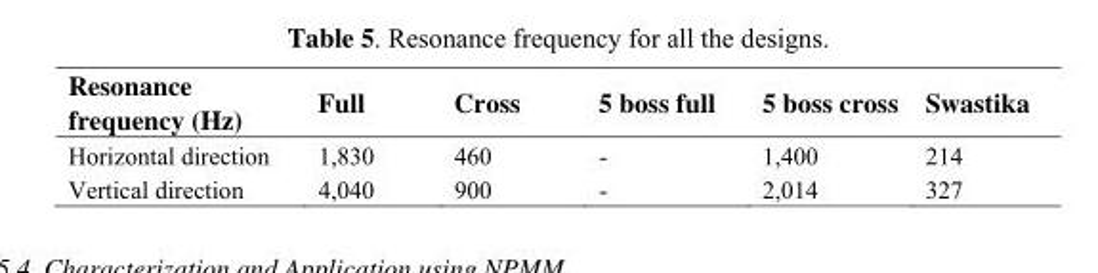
<table><thead><tr><td>Resonance frequency (Hz)</td><td>Full</td><td>Cross</td><td>5 boss full</td><td>5 boss cross</td><td>Swastika</td></tr></thead><tbody><tr><td>Horizontal direction</td><td>1,830</td><td>460</td><td>-</td><td>1,400</td><td>214</td></tr><tr><td>Vertical direction</td><td>4,040</td><td>900</td><td>-</td><td>2,014</td><td>327</td></tr></tbody></table>